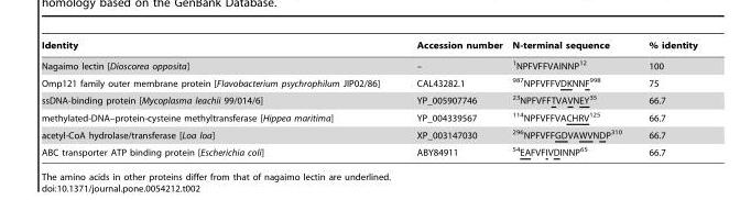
<table><thead><tr><td>Identity</td><td>Accession number</td><td>N-terminal sequence</td><td>% identity</td></tr></thead><tbody><tr><td>Nagaimo lectin [Dioscorea opposita]</td><td>–</td><td><sup>1</sup>NPFVFFVAINNP<sup>12</sup></td><td>100</td></tr><tr><td>Omp121 family outer membrane protein [Flavobacterium psychrophilum JIP02/86]</td><td>CAL43282.1</td><td><sup>987</sup>NPFVFFVDKNNF<sup>998</sup></td><td>75</td></tr><tr><td>ssDNA-binding protein [Mycoplasma leachii 99/014/6]</td><td>YP_005907746</td><td><sup>23</sup>NPFVFFTVAVNEY<sup>35</sup></td><td>66.7</td></tr><tr><td>methylated-DNA–protein-cysteine methyltransferase [Hippea maritima]</td><td>YP_004339567</td><td><sup>114</sup>NPFVFFVACHRV<sup>125</sup></td><td>66.7</td></tr><tr><td>acetyl-CoA hydrolase/transferase [Loa loa]</td><td>XP_003147030</td><td><sup>296</sup>NPFVFFGDVAWVNDP<sup>310</sup></td><td>66.7</td></tr><tr><td>ABC transporter ATP binding protein [Escherichia coli]</td><td>ABY84911</td><td><sup>54</sup>EAFVFIVDINNP<sup>65</sup></td><td>66.7</td></tr></tbody></table>